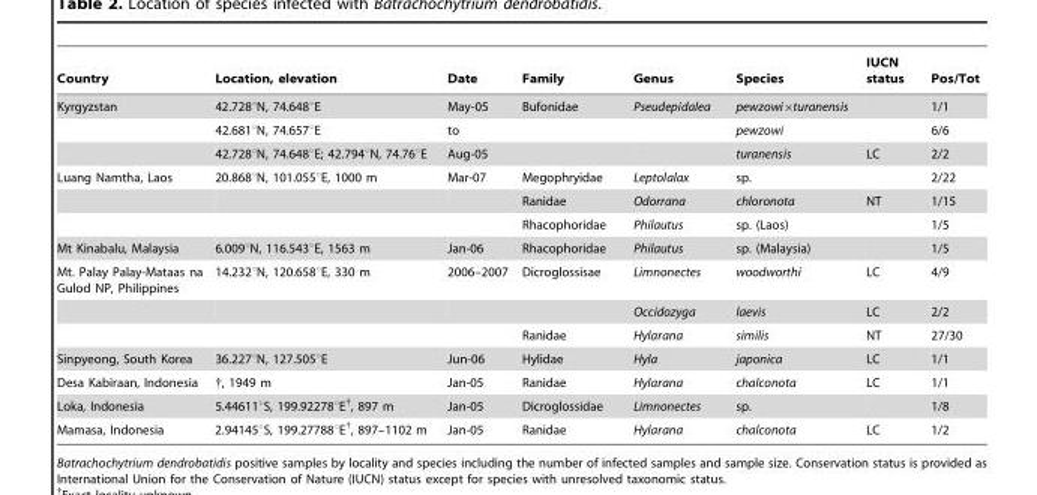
<table><thead><tr><td>Country</td><td>Location, elevation</td><td>Date</td><td>Family</td><td>Genus</td><td>Species</td><td>IUCN status</td><td>Pos/Tot</td></tr></thead><tbody><tr><td rowspan="3">Kyrgyzstan</td><td>42.728°N, 74.648°E</td><td>May-05</td><td>Bufonidae</td><td>Pseudepidalea</td><td>pewzowi×turanensis</td><td></td><td>1/1</td></tr><tr><td>42.681°N, 74.657°E</td><td>to</td><td></td><td></td><td>pewzowi</td><td></td><td>6/6</td></tr><tr><td>42.728°N, 74.648°E; 42.794°N, 74.76°E</td><td>Aug-05</td><td></td><td></td><td>turanensis</td><td>LC</td><td>2/2</td></tr><tr><td rowspan="3">Luang Namtha, Laos</td><td>20.868°N, 101.055°E, 1000 m</td><td>Mar-07</td><td>Megophryidae</td><td>Leptolalax</td><td>sp.</td><td></td><td>2/22</td></tr><tr><td></td><td></td><td>Ranidae</td><td>Odorrana</td><td>chloronota</td><td>NT</td><td>1/15</td></tr><tr><td></td><td></td><td>Rhacophoridae</td><td>Philautus</td><td>sp. (Laos)</td><td></td><td>1/5</td></tr><tr><td>Mt Kinabalu, Malaysia</td><td>6.009°N, 116.543°E, 1563 m</td><td>Jan-06</td><td>Rhacophoridae</td><td>Philautus</td><td>sp. (Malaysia)</td><td></td><td>1/5</td></tr><tr><td rowspan="3">Mt. Palay Palay-Mataas na Gulod NP, Philippines</td><td>14.232°N, 120.658°E, 330 m</td><td>2006–2007</td><td>Dicroglossisae</td><td>Limnonectes</td><td>woodworthi</td><td>LC</td><td>4/9</td></tr><tr><td></td><td></td><td></td><td>Occidozyga</td><td>laevis</td><td>LC</td><td>2/2</td></tr><tr><td></td><td></td><td>Ranidae</td><td>Hylarana</td><td>similis</td><td>NT</td><td>27/30</td></tr><tr><td>Sinpyeong, South Korea</td><td>36.227°N, 127.505°E</td><td>Jun-06</td><td>Hylidae</td><td>Hyla</td><td>japonica</td><td>LC</td><td>1/1</td></tr><tr><td>Desa Kabiraan, Indonesia</td><td>†, 1949 m</td><td>Jan-05</td><td>Ranidae</td><td>Hylarana</td><td>chalconota</td><td>LC</td><td>1/1</td></tr><tr><td>Loka, Indonesia</td><td>5.44611°S, 199.92278°E†, 897 m</td><td>Jan-05</td><td>Dicroglossidae</td><td>Limnonectes</td><td>sp.</td><td></td><td>1/8</td></tr><tr><td>Mamasa, Indonesia</td><td>2.94145°S, 199.27788°E†, 897–1102 m</td><td>Jan-05</td><td>Ranidae</td><td>Hylarana</td><td>chalconota</td><td>LC</td><td>1/2</td></tr></tbody></table>